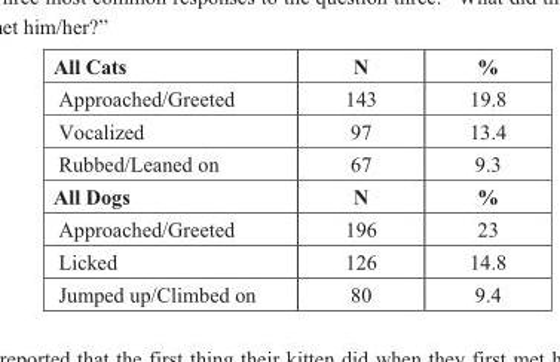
<table><thead><tr><td>All Cats</td><td>N</td><td>%</td></tr></thead><tbody><tr><td>Approached/Greeted</td><td>143</td><td>19.8</td></tr><tr><td>Vocalized</td><td>97</td><td>13.4</td></tr><tr><td>Rubbed/Leaned on</td><td>67</td><td>9.3</td></tr><tr><td>All Dogs</td><td>N</td><td>%</td></tr><tr><td>Approached/Greeted</td><td>196</td><td>23</td></tr><tr><td>Licked</td><td>126</td><td>14.8</td></tr><tr><td>Jumped up/Climbed on</td><td>80</td><td>9.4</td></tr></tbody></table>